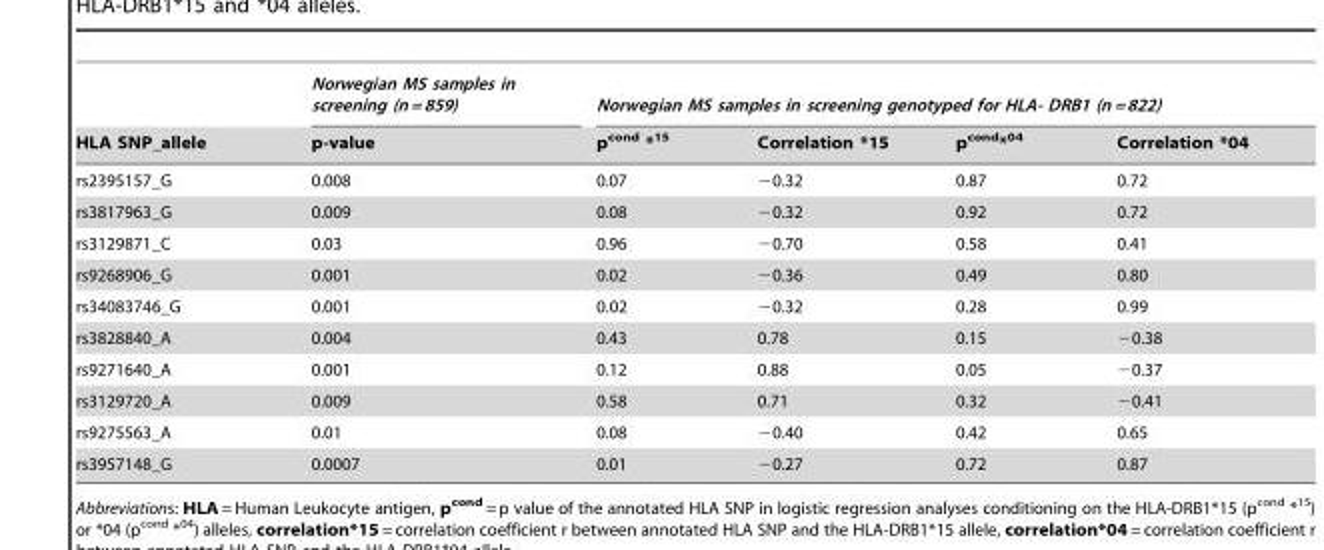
<table><thead><tr><td rowspan="2">HLA SNP_allele</td><td rowspan="2">Norwegian MS samples in screening (n = 859) p-value</td><td colspan="4">Norwegian MS samples in screening genotyped for HLA- DRB1 (n = 822)</td></tr><tr><td>p<sup>cond</sup> *<sup>15</sup></td><td>Correlation *15</td><td>p<sup>cond</sup>*<sup>04</sup></td><td>Correlation *04</td></tr></thead><tbody><tr><td>rs2395157_G</td><td>0.008</td><td>0.07</td><td>−0.32</td><td>0.87</td><td>0.72</td></tr><tr><td>rs3817963_G</td><td>0.009</td><td>0.08</td><td>−0.32</td><td>0.92</td><td>0.72</td></tr><tr><td>rs3129871_C</td><td>0.03</td><td>0.96</td><td>−0.70</td><td>0.58</td><td>0.41</td></tr><tr><td>rs9268906_G</td><td>0.001</td><td>0.02</td><td>−0.36</td><td>0.49</td><td>0.80</td></tr><tr><td>rs34083746_G</td><td>0.001</td><td>0.02</td><td>−0.32</td><td>0.28</td><td>0.99</td></tr><tr><td>rs3828840_A</td><td>0.004</td><td>0.43</td><td>0.78</td><td>0.15</td><td>−0.38</td></tr><tr><td>rs9271640_A</td><td>0.001</td><td>0.12</td><td>0.88</td><td>0.05</td><td>−0.37</td></tr><tr><td>rs3129720_A</td><td>0.009</td><td>0.58</td><td>0.71</td><td>0.32</td><td>−0.41</td></tr><tr><td>rs9275563_A</td><td>0.01</td><td>0.08</td><td>−0.40</td><td>0.42</td><td>0.65</td></tr><tr><td>rs3957148_G</td><td>0.0007</td><td>0.01</td><td>−0.27</td><td>0.72</td><td>0.87</td></tr></tbody></table>